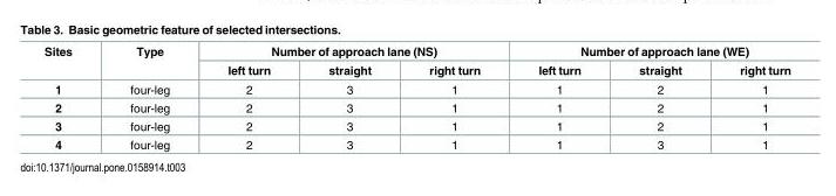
<table><thead><tr><td rowspan="2">Sites</td><td rowspan="2">Type</td><td colspan="3">Number of approach lane (NS)</td><td colspan="3">Number of approach lane (WE)</td></tr><tr><td>left turn</td><td>straight</td><td>right turn</td><td>left turn</td><td>straight</td><td>right turn</td></tr></thead><tbody><tr><td>1</td><td>four-leg</td><td>2</td><td>3</td><td>1</td><td>1</td><td>2</td><td>1</td></tr><tr><td>2</td><td>four-leg</td><td>2</td><td>3</td><td>1</td><td>1</td><td>2</td><td>1</td></tr><tr><td>3</td><td>four-leg</td><td>2</td><td>3</td><td>1</td><td>1</td><td>2</td><td>1</td></tr><tr><td>4</td><td>four-leg</td><td>2</td><td>3</td><td>1</td><td>1</td><td>3</td><td>1</td></tr></tbody></table>